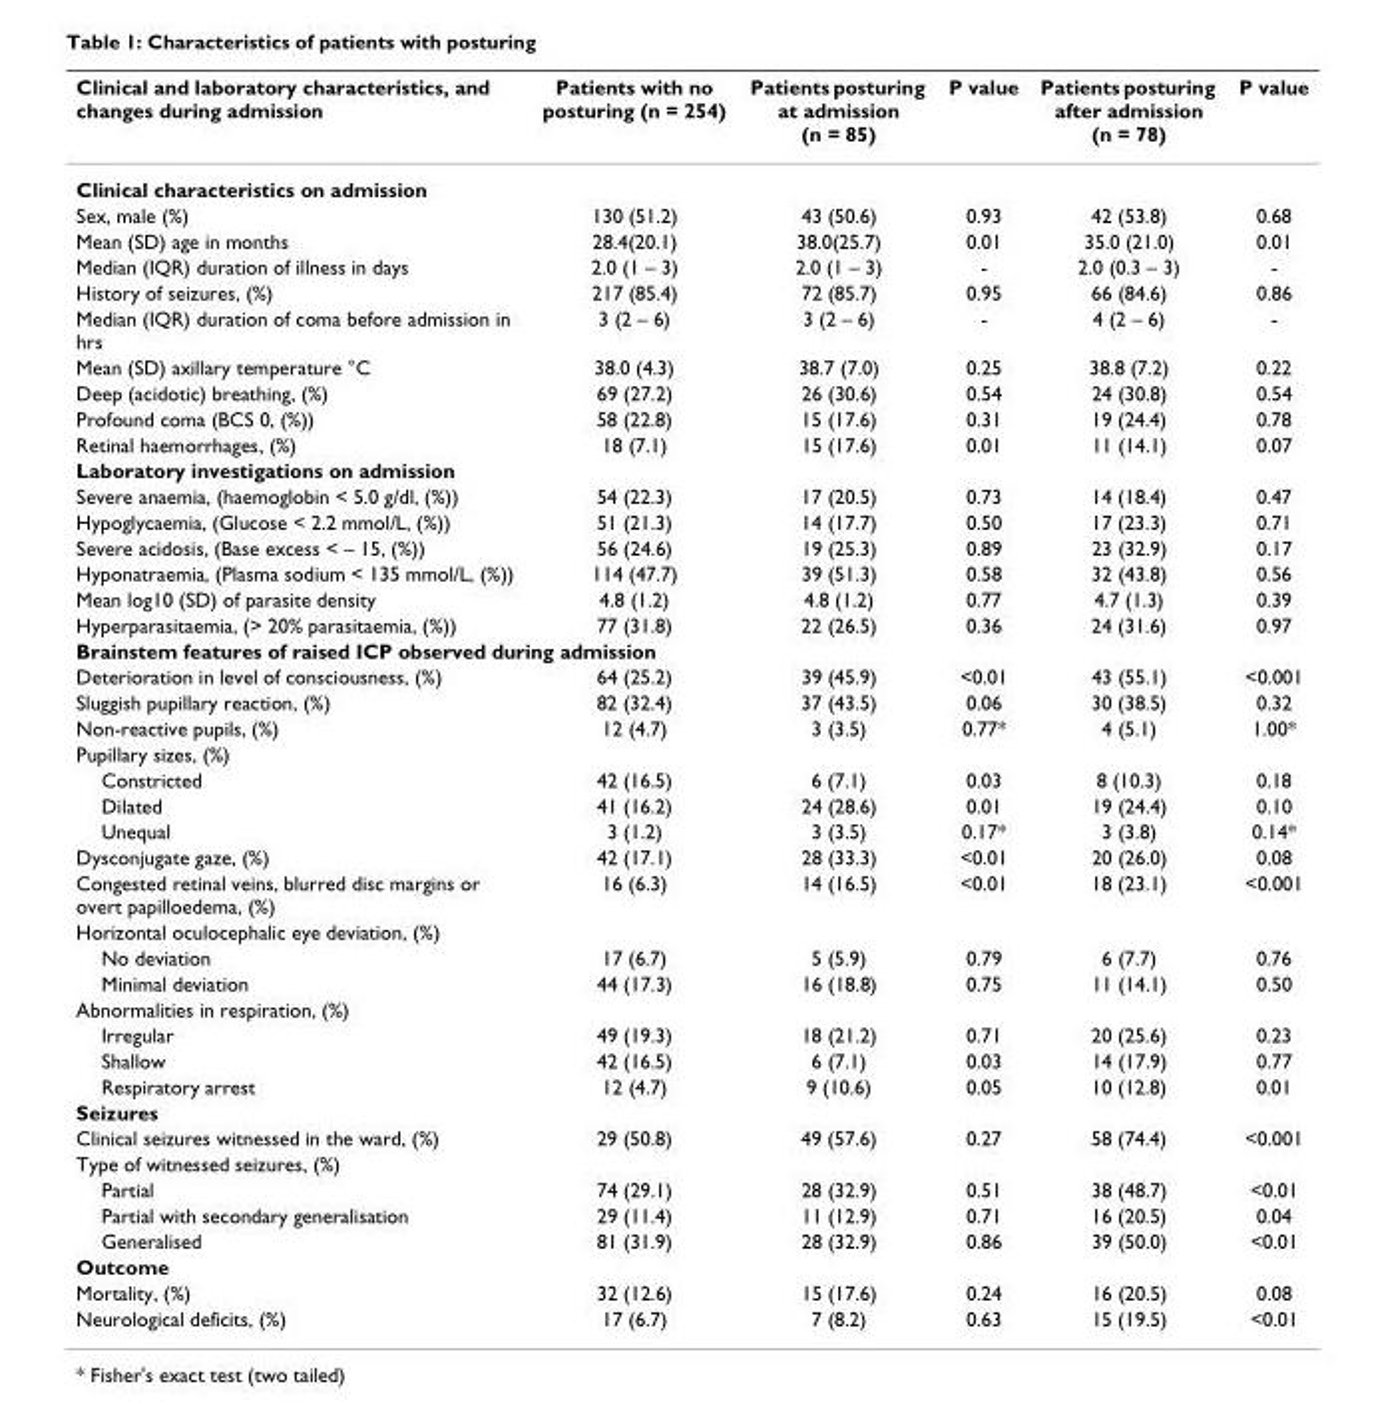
<table><thead><tr><td>Clinical and laboratory characteristics, and changes during admission</td><td>Patients with no posturing (n = 254)</td><td>Patients posturing at admission (n = 85)</td><td>P value</td><td>Patients posturing after admission (n = 78)</td><td>P value</td></tr></thead><tbody><tr><td colspan="6">Clinical characteristics on admission</td></tr><tr><td>Sex, male (%)</td><td>130 (51.2)</td><td>43 (50.6)</td><td>0.93</td><td>42 (53.8)</td><td>0.68</td></tr><tr><td>Mean (SD) age in months</td><td>28.4(20.1)</td><td>38.0(25.7)</td><td>0.01</td><td>35.0 (21.0)</td><td>0.01</td></tr><tr><td>Median (IQR) duration of illness in days</td><td>2.0 (1 – 3)</td><td>2.0 (1 – 3)</td><td>-</td><td>2.0 (0.3 – 3)</td><td>-</td></tr><tr><td>History of seizures, (%)</td><td>217 (85.4)</td><td>72 (85.7)</td><td>0.95</td><td>66 (84.6)</td><td>0.86</td></tr><tr><td>Median (IQR) duration of coma before admission in hrs</td><td>3 (2 – 6)</td><td>3 (2 – 6)</td><td>-</td><td>4 (2 – 6)</td><td>-</td></tr><tr><td>Mean (SD) axillary temperature °C</td><td>38.0 (4.3)</td><td>38.7 (7.0)</td><td>0.25</td><td>38.8 (7.2)</td><td>0.22</td></tr><tr><td>Deep (acidotic) breathing, (%)</td><td>69 (27.2)</td><td>26 (30.6)</td><td>0.54</td><td>24 (30.8)</td><td>0.54</td></tr><tr><td>Profound coma (BCS 0, (%))</td><td>58 (22.8)</td><td>15 (17.6)</td><td>0.31</td><td>19 (24.4)</td><td>0.78</td></tr><tr><td>Retinal haemorrhages, (%)</td><td>18 (7.1)</td><td>15 (17.6)</td><td>0.01</td><td>11 (14.1)</td><td>0.07</td></tr><tr><td colspan="6">Laboratory investigations on admission</td></tr><tr><td>Severe anaemia, (haemoglobin &lt; 5.0 g/dl, (%))</td><td>54 (22.3)</td><td>17 (20.5)</td><td>0.73</td><td>14 (18.4)</td><td>0.47</td></tr><tr><td>Hypoglycaemia, (Glucose &lt; 2.2 mmol/L, (%))</td><td>51 (21.3)</td><td>14 (17.7)</td><td>0.50</td><td>17 (23.3)</td><td>0.71</td></tr><tr><td>Severe acidosis, (Base excess &lt; – 15, (%))</td><td>56 (24.6)</td><td>19 (25.3)</td><td>0.89</td><td>23 (32.9)</td><td>0.17</td></tr><tr><td>Hyponatraemia, (Plasma sodium &lt; 135 mmol/L, (%))</td><td>114 (47.7)</td><td>39 (51.3)</td><td>0.58</td><td>32 (43.8)</td><td>0.56</td></tr><tr><td>Mean log10 (SD) of parasite density</td><td>4.8 (1.2)</td><td>4.8 (1.2)</td><td>0.77</td><td>4.7 (1.3)</td><td>0.39</td></tr><tr><td>Hyperparasitaemia, (&gt; 20% parasitaemia, (%))</td><td>77 (31.8)</td><td>22 (26.5)</td><td>0.36</td><td>24 (31.6)</td><td>0.97</td></tr><tr><td colspan="6">Brainstem features of raised ICP observed during admission</td></tr><tr><td>Deterioration in level of consciousness, (%)</td><td>64 (25.2)</td><td>39 (45.9)</td><td>&lt;0.01</td><td>43 (55.1)</td><td>&lt;0.001</td></tr><tr><td>Sluggish pupillary reaction, (%)</td><td>82 (32.4)</td><td>37 (43.5)</td><td>0.06</td><td>30 (38.5)</td><td>0.32</td></tr><tr><td>Non-reactive pupils, (%)</td><td>12 (4.7)</td><td>3 (3.5)</td><td>0.77*</td><td>4 (5.1)</td><td>1.00*</td></tr><tr><td colspan="6">Pupillary sizes, (%)</td></tr><tr><td>Constricted</td><td>42 (16.5)</td><td>6 (7.1)</td><td>0.03</td><td>8 (10.3)</td><td>0.18</td></tr><tr><td>Dilated</td><td>41 (16.2)</td><td>24 (28.6)</td><td>0.01</td><td>19 (24.4)</td><td>0.10</td></tr><tr><td>Unequal</td><td>3 (1.2)</td><td>3 (3.5)</td><td>0.17*</td><td>3 (3.8)</td><td>0.14*</td></tr><tr><td>Dysconjugate gaze, (%)</td><td>42 (17.1)</td><td>28 (33.3)</td><td>&lt;0.01</td><td>20 (26.0)</td><td>0.08</td></tr><tr><td>Congested retinal veins, blurred disc margins or overt papilloedema, (%)</td><td>16 (6.3)</td><td>14 (16.5)</td><td>&lt;0.01</td><td>18 (23.1)</td><td>&lt;0.001</td></tr><tr><td colspan="6">Horizontal oculocephalic eye deviation, (%)</td></tr><tr><td>No deviation</td><td>17 (6.7)</td><td>5 (5.9)</td><td>0.79</td><td>6 (7.7)</td><td>0.76</td></tr><tr><td>Minimal deviation</td><td>44 (17.3)</td><td>16 (18.8)</td><td>0.75</td><td>11 (14.1)</td><td>0.50</td></tr><tr><td colspan="6">Abnormalities in respiration, (%)</td></tr><tr><td>Irregular</td><td>49 (19.3)</td><td>18 (21.2)</td><td>0.71</td><td>20 (25.6)</td><td>0.23</td></tr><tr><td>Shallow</td><td>42 (16.5)</td><td>6 (7.1)</td><td>0.03</td><td>14 (17.9)</td><td>0.77</td></tr><tr><td>Respiratory arrest</td><td>12 (4.7)</td><td>9 (10.6)</td><td>0.05</td><td>10 (12.8)</td><td>0.01</td></tr><tr><td colspan="6">Seizures</td></tr><tr><td>Clinical seizures witnessed in the ward, (%)</td><td>29 (50.8)</td><td>49 (57.6)</td><td>0.27</td><td>58 (74.4)</td><td>&lt;0.001</td></tr><tr><td colspan="6">Type of witnessed seizures, (%)</td></tr><tr><td>Partial</td><td>74 (29.1)</td><td>28 (32.9)</td><td>0.51</td><td>38 (48.7)</td><td>&lt;0.01</td></tr><tr><td>Partial with secondary generalisation</td><td>29 (11.4)</td><td>11 (12.9)</td><td>0.71</td><td>16 (20.5)</td><td>0.04</td></tr><tr><td>Generalised</td><td>81 (31.9)</td><td>28 (32.9)</td><td>0.86</td><td>39 (50.0)</td><td>&lt;0.01</td></tr><tr><td colspan="6">Outcome</td></tr><tr><td>Mortality, (%)</td><td>32 (12.6)</td><td>15 (17.6)</td><td>0.24</td><td>16 (20.5)</td><td>0.08</td></tr><tr><td>Neurological deficits, (%)</td><td>17 (6.7)</td><td>7 (8.2)</td><td>0.63</td><td>15 (19.5)</td><td>&lt;0.01</td></tr></tbody></table>